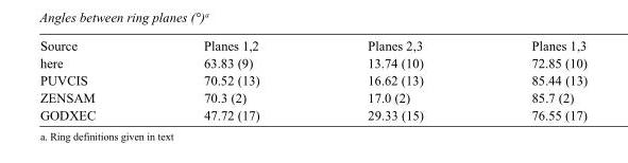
<table><tbody><tr><td>Source</td><td>Planes 1,2</td><td>Planes 2,3</td><td>Planes 1,3</td></tr><tr><td>here</td><td>63.83 (9)</td><td>13.74 (10)</td><td>72.85 (10)</td></tr><tr><td>PUVCIS</td><td>70.52 (13)</td><td>16.62 (13)</td><td>85.44 (13)</td></tr><tr><td>ZENSAM</td><td>70.3 (2)</td><td>17.0 (2)</td><td>85.7 (2)</td></tr><tr><td>GODXEC</td><td>47.72 (17)</td><td>29.33 (15)</td><td>76.55 (17)</td></tr></tbody></table>